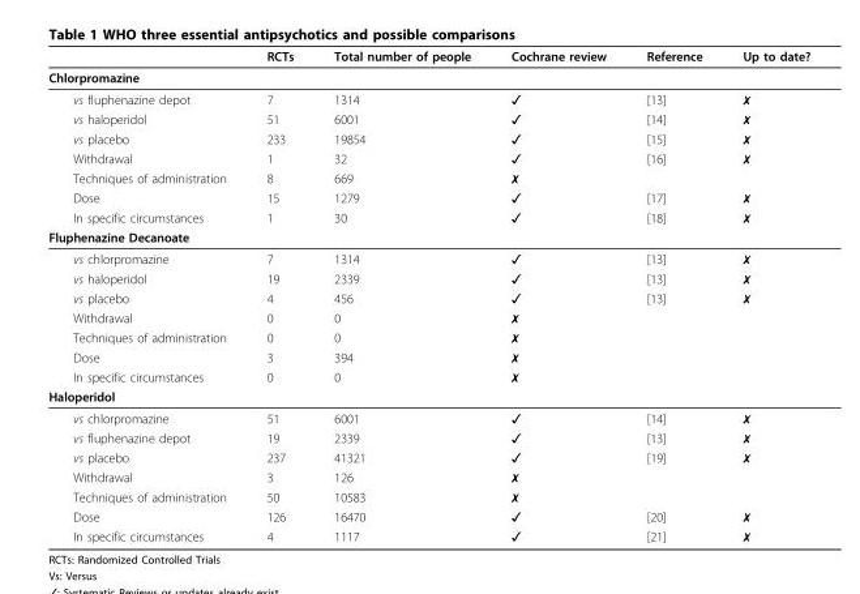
<table><thead><tr><td></td><td>RCTs</td><td>Total number of people</td><td>Cochrane review</td><td>Reference</td><td>Up to date?</td></tr></thead><tbody><tr><td colspan="6">Chlorpromazine</td></tr><tr><td>vs fluphenazine depot</td><td>7</td><td>1314</td><td>✓</td><td>[13]</td><td>✗</td></tr><tr><td>vs haloperidol</td><td>51</td><td>6001</td><td>✓</td><td>[14]</td><td>✗</td></tr><tr><td>vs placebo</td><td>233</td><td>19854</td><td>✓</td><td>[15]</td><td>✗</td></tr><tr><td>Withdrawal</td><td>1</td><td>32</td><td>✓</td><td>[16]</td><td>✗</td></tr><tr><td>Techniques of administration</td><td>8</td><td>669</td><td>✗</td><td></td><td></td></tr><tr><td>Dose</td><td>15</td><td>1279</td><td>✓</td><td>[17]</td><td>✗</td></tr><tr><td>In specific circumstances</td><td>1</td><td>30</td><td>✓</td><td>[18]</td><td>✗</td></tr><tr><td colspan="6">Fluphenazine Decanoate</td></tr><tr><td>vs chlorpromazine</td><td>7</td><td>1314</td><td>✓</td><td>[13]</td><td>✗</td></tr><tr><td>vs haloperidol</td><td>19</td><td>2339</td><td>✓</td><td>[13]</td><td>✗</td></tr><tr><td>vs placebo</td><td>4</td><td>456</td><td>✓</td><td>[13]</td><td>✗</td></tr><tr><td>Withdrawal</td><td>0</td><td>0</td><td>✗</td><td></td><td></td></tr><tr><td>Techniques of administration</td><td>0</td><td>0</td><td>✗</td><td></td><td></td></tr><tr><td>Dose</td><td>3</td><td>394</td><td>✗</td><td></td><td></td></tr><tr><td>In specific circumstances</td><td>0</td><td>0</td><td>✗</td><td></td><td></td></tr><tr><td colspan="6">Haloperidol</td></tr><tr><td>vs chlorpromazine</td><td>51</td><td>6001</td><td>✓</td><td>[14]</td><td>✗</td></tr><tr><td>vs fluphenazine depot</td><td>19</td><td>2339</td><td>✓</td><td>[13]</td><td>✗</td></tr><tr><td>vs placebo</td><td>237</td><td>41321</td><td>✓</td><td>[19]</td><td>✗</td></tr><tr><td>Withdrawal</td><td>3</td><td>126</td><td>✗</td><td></td><td></td></tr><tr><td>Techniques of administration</td><td>50</td><td>10583</td><td>✗</td><td></td><td></td></tr><tr><td>Dose</td><td>126</td><td>16470</td><td>✓</td><td>[20]</td><td>✗</td></tr><tr><td>In specific circumstances</td><td>4</td><td>1117</td><td>✓</td><td>[21]</td><td>✗</td></tr></tbody></table>